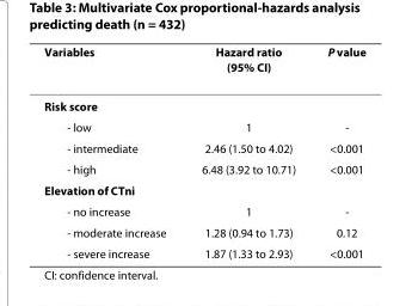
<table><thead><tr><td>Variables</td><td>Hazard ratio (95% CI)</td><td>P value</td></tr></thead><tbody><tr><td colspan="3">Risk score</td></tr><tr><td>- low</td><td>1</td><td>-</td></tr><tr><td>- intermediate</td><td>2.46 (1.50 to 4.02)</td><td>&lt;0.001</td></tr><tr><td>- high</td><td>6.48 (3.92 to 10.71)</td><td>&lt;0.001</td></tr><tr><td colspan="3">Elevation of CTni</td></tr><tr><td>- no increase</td><td>1</td><td>-</td></tr><tr><td>- moderate increase</td><td>1.28 (0.94 to 1.73)</td><td>0.12</td></tr><tr><td>- severe increase</td><td>1.87 (1.33 to 2.93)</td><td>&lt;0.001</td></tr></tbody></table>